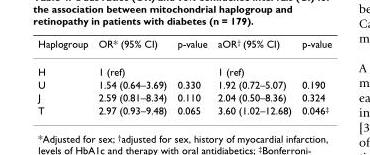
<table><thead><tr><td>Haplogroup</td><td>OR* (95% CI)</td><td>p-value</td><td>aOR<sup>†</sup> (95% CI)</td><td>p-value</td></tr></thead><tbody><tr><td>H</td><td>1 (ref)</td><td></td><td>1 (ref)</td><td></td></tr><tr><td>U</td><td>1.54 (0.64–3.69)</td><td>0.330</td><td>1.92 (0.72–5.07)</td><td>0.190</td></tr><tr><td>J</td><td>2.59 (0.81–8.34)</td><td>0.110</td><td>2.04 (0.50–8.36)</td><td>0.324</td></tr><tr><td>T</td><td>2.97 (0.93–9.48)</td><td>0.065</td><td>3.60 (1.02–12.68)</td><td>0.046<sup>‡</sup></td></tr></tbody></table>